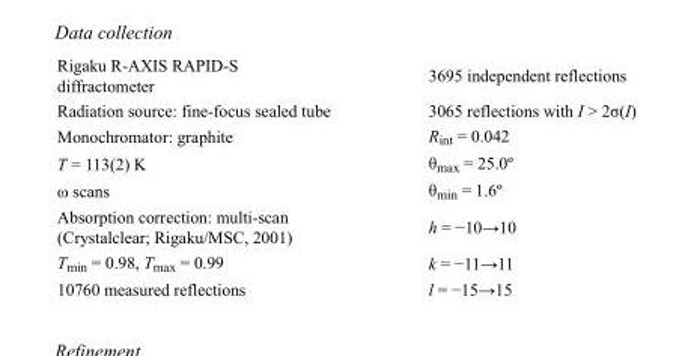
<table><tbody><tr><td>Rigaku R-AXIS RAPID-S diffractometer</td><td>3695 independent reflections</td></tr><tr><td>Radiation source: fine-focus sealed tube</td><td>3065 reflections with I &gt; 2σ(I)</td></tr><tr><td>Monochromator: graphite</td><td>R<sub>int</sub> = 0.042</td></tr><tr><td>T = 113(2) K</td><td>θ<sub>max</sub> = 25.0º</td></tr><tr><td>ω scans</td><td>θ<sub>min</sub> = 1.6º</td></tr><tr><td>Absorption correction: multi-scan (Crystalclear; Rigaku/MSC, 2001)</td><td>h = −10→10</td></tr><tr><td>T<sub>min</sub> = 0.98, T<sub>max</sub> = 0.99</td><td>k = −11→11</td></tr><tr><td>10760 measured reflections</td><td>l = −15→15</td></tr></tbody></table>